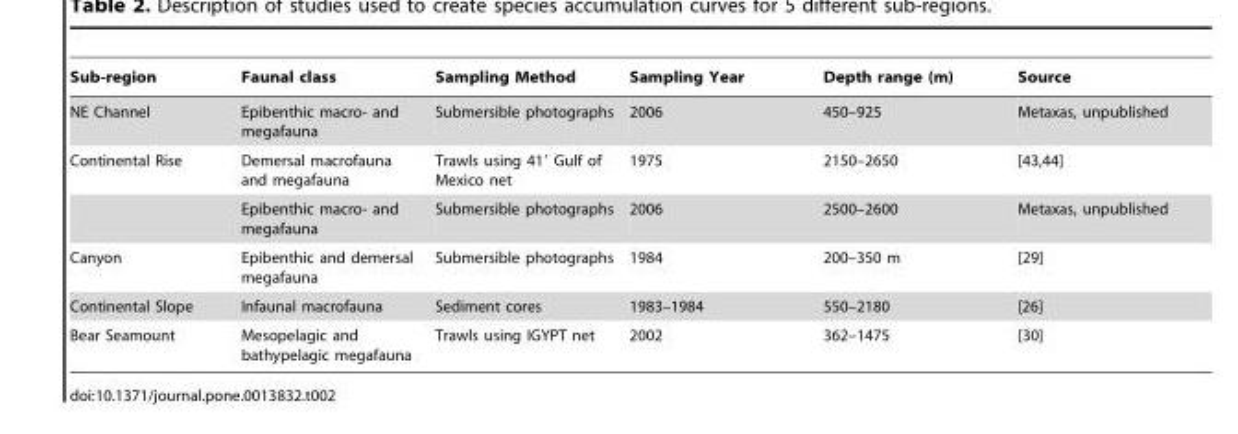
<table><thead><tr><td>Sub-region</td><td>Faunal class</td><td>Sampling Method</td><td>Sampling Year</td><td>Depth range (m)</td><td>Source</td></tr></thead><tbody><tr><td>NE Channel</td><td>Epibenthic macro- and megafauna</td><td>Submersible photographs</td><td>2006</td><td>450–925</td><td>Metaxas, unpublished</td></tr><tr><td rowspan="2">Continental Rise</td><td>Demersal macrofauna and megafauna</td><td>Trawls using 41′ Gulf of Mexico net</td><td>1975</td><td>2150–2650</td><td>[43,44]</td></tr><tr><td>Epibenthic macro- and megafauna</td><td>Submersible photographs</td><td>2006</td><td>2500–2600</td><td>Metaxas, unpublished</td></tr><tr><td>Canyon</td><td>Epibenthic and demersal megafauna</td><td>Submersible photographs</td><td>1984</td><td>200–350 m</td><td>[29]</td></tr><tr><td>Continental Slope</td><td>Infaunal macrofauna</td><td>Sediment cores</td><td>1983–1984</td><td>550–2180</td><td>[26]</td></tr><tr><td>Bear Seamount</td><td>Mesopelagic and bathypelagic megafauna</td><td>Trawls using IGYPT net</td><td>2002</td><td>362–1475</td><td>[30]</td></tr></tbody></table>